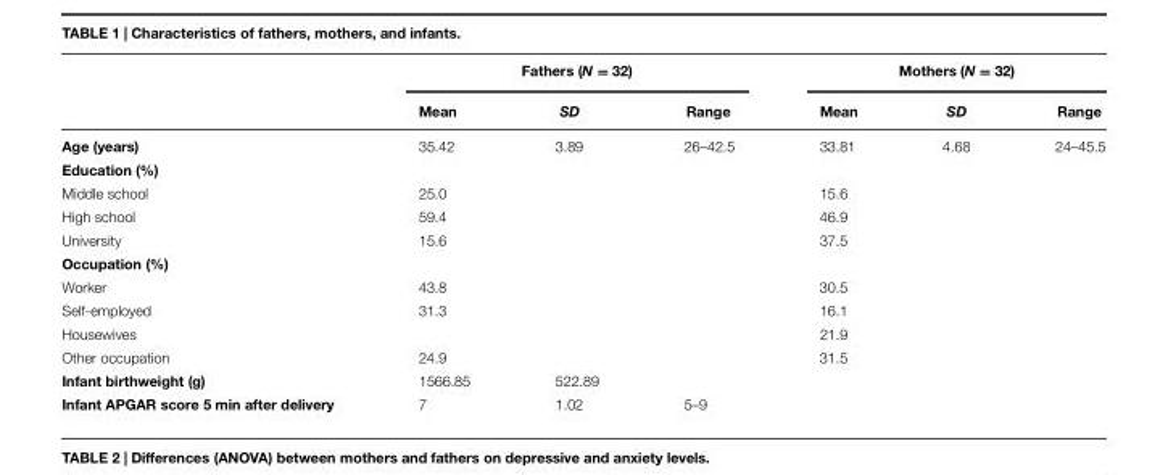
<table><thead><tr><td rowspan="2"></td><td colspan="3">Fathers (N = 32)</td><td colspan="3">Mothers (N = 32)</td></tr><tr><td>Mean</td><td>SD</td><td>Range</td><td>Mean</td><td>SD</td><td>Range</td></tr></thead><tbody><tr><td>Age (years)</td><td>35.42</td><td>3.89</td><td>26–42.5</td><td>33.81</td><td>4.68</td><td>24–45.5</td></tr><tr><td colspan="7">Education (%)</td></tr><tr><td>Middle school</td><td>25.0</td><td></td><td></td><td>15.6</td><td></td><td></td></tr><tr><td>High school</td><td>59.4</td><td></td><td></td><td>46.9</td><td></td><td></td></tr><tr><td>University</td><td>15.6</td><td></td><td></td><td>37.5</td><td></td><td></td></tr><tr><td colspan="7">Occupation (%)</td></tr><tr><td>Worker</td><td>43.8</td><td></td><td></td><td>30.5</td><td></td><td></td></tr><tr><td>Self-employed</td><td>31.3</td><td></td><td></td><td>16.1</td><td></td><td></td></tr><tr><td>Housewives</td><td></td><td></td><td></td><td>21.9</td><td></td><td></td></tr><tr><td>Other occupation</td><td>24.9</td><td></td><td></td><td>31.5</td><td></td><td></td></tr><tr><td>Infant birthweight (g)</td><td>1566.85</td><td>522.89</td><td></td><td></td><td></td><td></td></tr><tr><td>Infant APGAR score 5 min after delivery</td><td>7</td><td>1.02</td><td>5–9</td><td></td><td></td><td></td></tr></tbody></table>